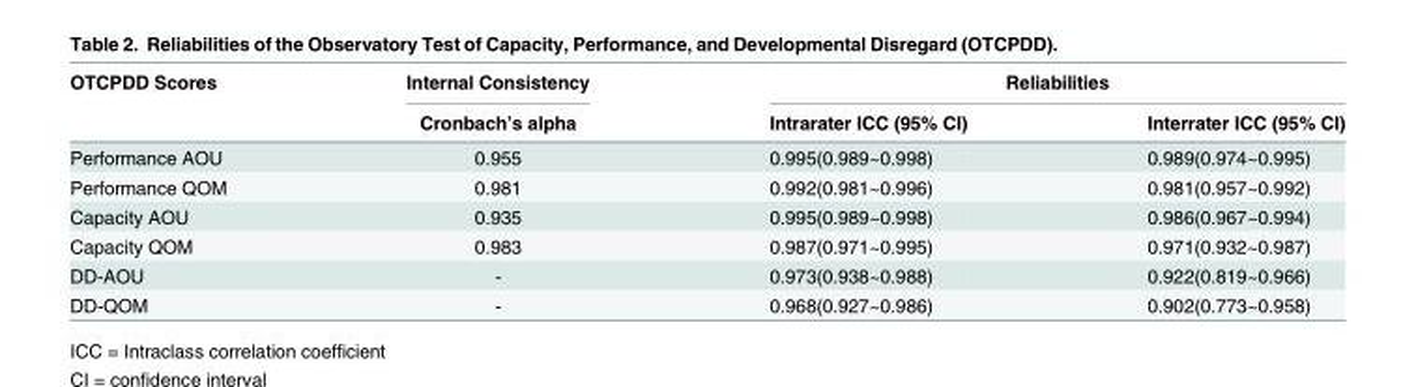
<table><thead><tr><td rowspan="2">OTCPDD Scores</td><td rowspan="2">Internal Consistency Cronbach’s alpha</td><td colspan="2">Reliabilities</td></tr><tr><td>Intrarater ICC (95% CI)</td><td>Interrater ICC (95% CI)</td></tr></thead><tbody><tr><td>Performance AOU</td><td>0.955</td><td>0.995(0.989~0.998)</td><td>0.989(0.974~0.995)</td></tr><tr><td>Performance QOM</td><td>0.981</td><td>0.992(0.981~0.996)</td><td>0.981(0.957~0.992)</td></tr><tr><td>Capacity AOU</td><td>0.935</td><td>0.995(0.989~0.998)</td><td>0.986(0.967~0.994)</td></tr><tr><td>Capacity QOM</td><td>0.983</td><td>0.987(0.971~0.995)</td><td>0.971(0.932~0.987)</td></tr><tr><td>DD-AOU</td><td>-</td><td>0.973(0.938~0.988)</td><td>0.922(0.819~0.966)</td></tr><tr><td>DD-QOM</td><td>-</td><td>0.968(0.927~0.986)</td><td>0.902(0.773~0.958)</td></tr></tbody></table>